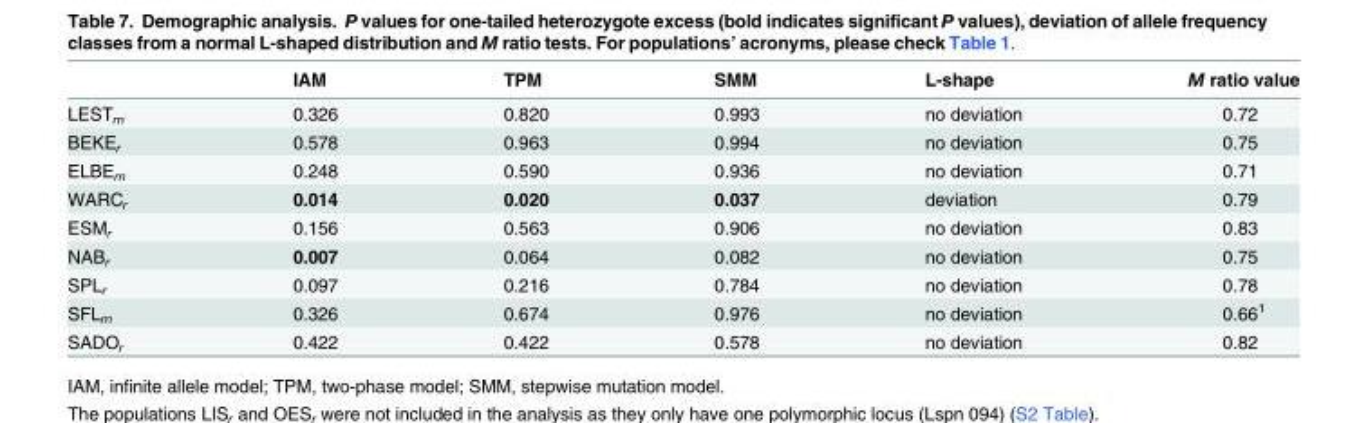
<table><thead><tr><td></td><td>IAM</td><td>TPM</td><td>SMM</td><td>L-shape</td><td>M ratio value</td></tr></thead><tbody><tr><td>LEST<sub>m</sub></td><td>0.326</td><td>0.820</td><td>0.993</td><td>no deviation</td><td>0.72</td></tr><tr><td>BEKE<sub>r</sub></td><td>0.578</td><td>0.963</td><td>0.994</td><td>no deviation</td><td>0.75</td></tr><tr><td>ELBE<sub>m</sub></td><td>0.248</td><td>0.590</td><td>0.936</td><td>no deviation</td><td>0.71</td></tr><tr><td>WARC<sub>r</sub></td><td>0.014</td><td>0.020</td><td>0.037</td><td>deviation</td><td>0.79</td></tr><tr><td>ESM<sub>r</sub></td><td>0.156</td><td>0.563</td><td>0.906</td><td>no deviation</td><td>0.83</td></tr><tr><td>NAB<sub>r</sub></td><td>0.007</td><td>0.064</td><td>0.082</td><td>no deviation</td><td>0.75</td></tr><tr><td>SPL<sub>r</sub></td><td>0.097</td><td>0.216</td><td>0.784</td><td>no deviation</td><td>0.78</td></tr><tr><td>SFL<sub>m</sub></td><td>0.326</td><td>0.674</td><td>0.976</td><td>no deviation</td><td>0.66<sup>1</sup></td></tr><tr><td>SADO<sub>r</sub></td><td>0.422</td><td>0.422</td><td>0.578</td><td>no deviation</td><td>0.82</td></tr></tbody></table>